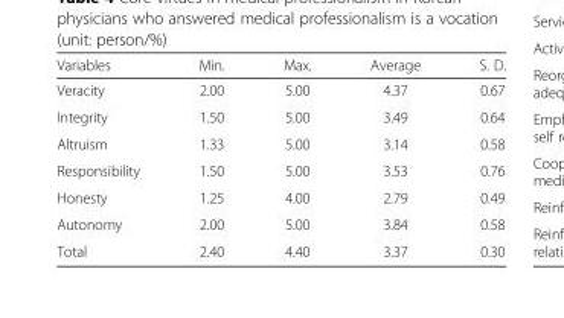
<table><thead><tr><td>Variables</td><td>Min.</td><td>Max.</td><td>Average</td><td>S. D.</td></tr></thead><tbody><tr><td>Veracity</td><td>2.00</td><td>5.00</td><td>4.37</td><td>0.67</td></tr><tr><td>Integrity</td><td>1.50</td><td>5.00</td><td>3.49</td><td>0.64</td></tr><tr><td>Altruism</td><td>1.33</td><td>5.00</td><td>3.14</td><td>0.58</td></tr><tr><td>Responsibility</td><td>1.50</td><td>5.00</td><td>3.53</td><td>0.76</td></tr><tr><td>Honesty</td><td>1.25</td><td>4.00</td><td>2.79</td><td>0.49</td></tr><tr><td>Autonomy</td><td>2.00</td><td>5.00</td><td>3.84</td><td>0.58</td></tr><tr><td>Total</td><td>2.40</td><td>4.40</td><td>3.37</td><td>0.30</td></tr></tbody></table>